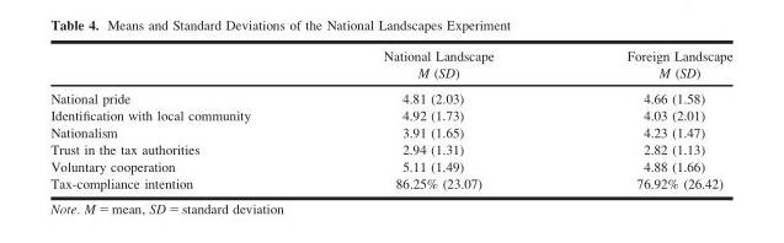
<table><thead><tr><td rowspan="2"></td><td rowspan="2">National Landscape M (SD)</td><td rowspan="2">Foreign Landscape M (SD)</td></tr><tr></tr></thead><tbody><tr><td>National pride</td><td>4.81 (2.03)</td><td>4.66 (1.58)</td></tr><tr><td>Identification with local community</td><td>4.92 (1.73)</td><td>4.03 (2.01)</td></tr><tr><td>Nationalism</td><td>3.91 (1.65)</td><td>4.23 (1.47)</td></tr><tr><td>Trust in the tax authorities</td><td>2.94 (1.31)</td><td>2.82 (1.13)</td></tr><tr><td>Voluntary cooperation</td><td>5.11 (1.49)</td><td>4.88 (1.66)</td></tr><tr><td>Tax-compliance intention</td><td>86.25% (23.07)</td><td>76.92% (26.42)</td></tr></tbody></table>